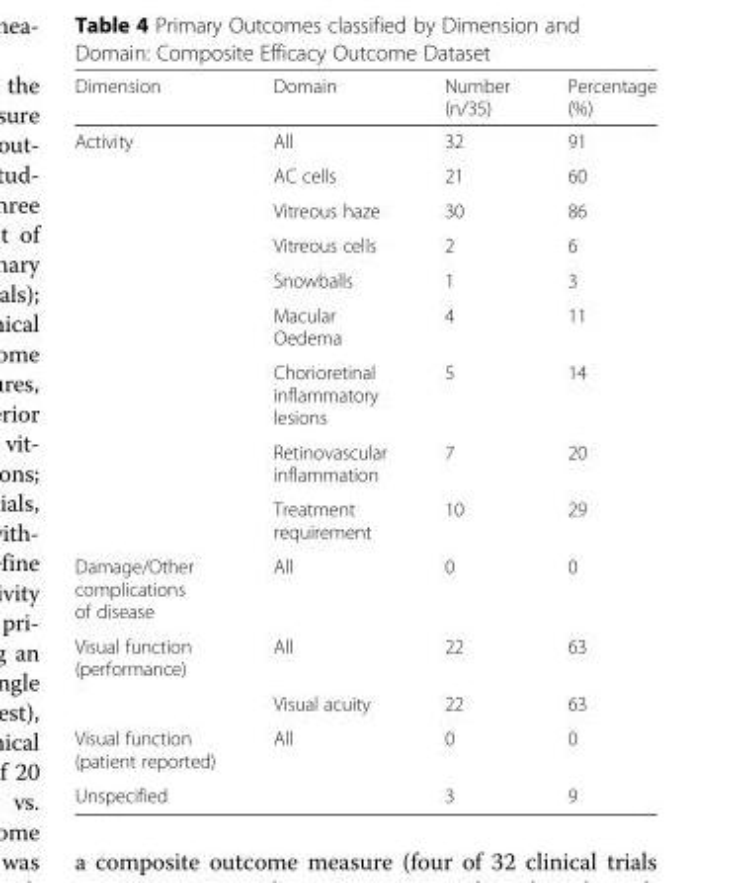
<table><thead><tr><td>Dimension</td><td>Domain</td><td>Number (n/35)</td><td>Percentage (%)</td></tr></thead><tbody><tr><td rowspan="9">Activity</td><td>All</td><td>32</td><td>91</td></tr><tr><td>AC cells</td><td>21</td><td>60</td></tr><tr><td>Vitreous haze</td><td>30</td><td>86</td></tr><tr><td>Vitreous cells</td><td>2</td><td>6</td></tr><tr><td>Snowballs</td><td>1</td><td>3</td></tr><tr><td>Macular Oedema</td><td>4</td><td>11</td></tr><tr><td>Chorioretinal inflammatory lesions</td><td>5</td><td>14</td></tr><tr><td>Retinovascular inflammation</td><td>7</td><td>20</td></tr><tr><td>Treatment requirement</td><td>10</td><td>29</td></tr><tr><td>Damage/Other complications of disease</td><td>All</td><td>0</td><td>0</td></tr><tr><td rowspan="2">Visual function (performance)</td><td>All</td><td>22</td><td>63</td></tr><tr><td>Visual acuity</td><td>22</td><td>63</td></tr><tr><td>Visual function (patient reported)</td><td>All</td><td>0</td><td>0</td></tr><tr><td>Unspecified</td><td></td><td>3</td><td>9</td></tr></tbody></table>